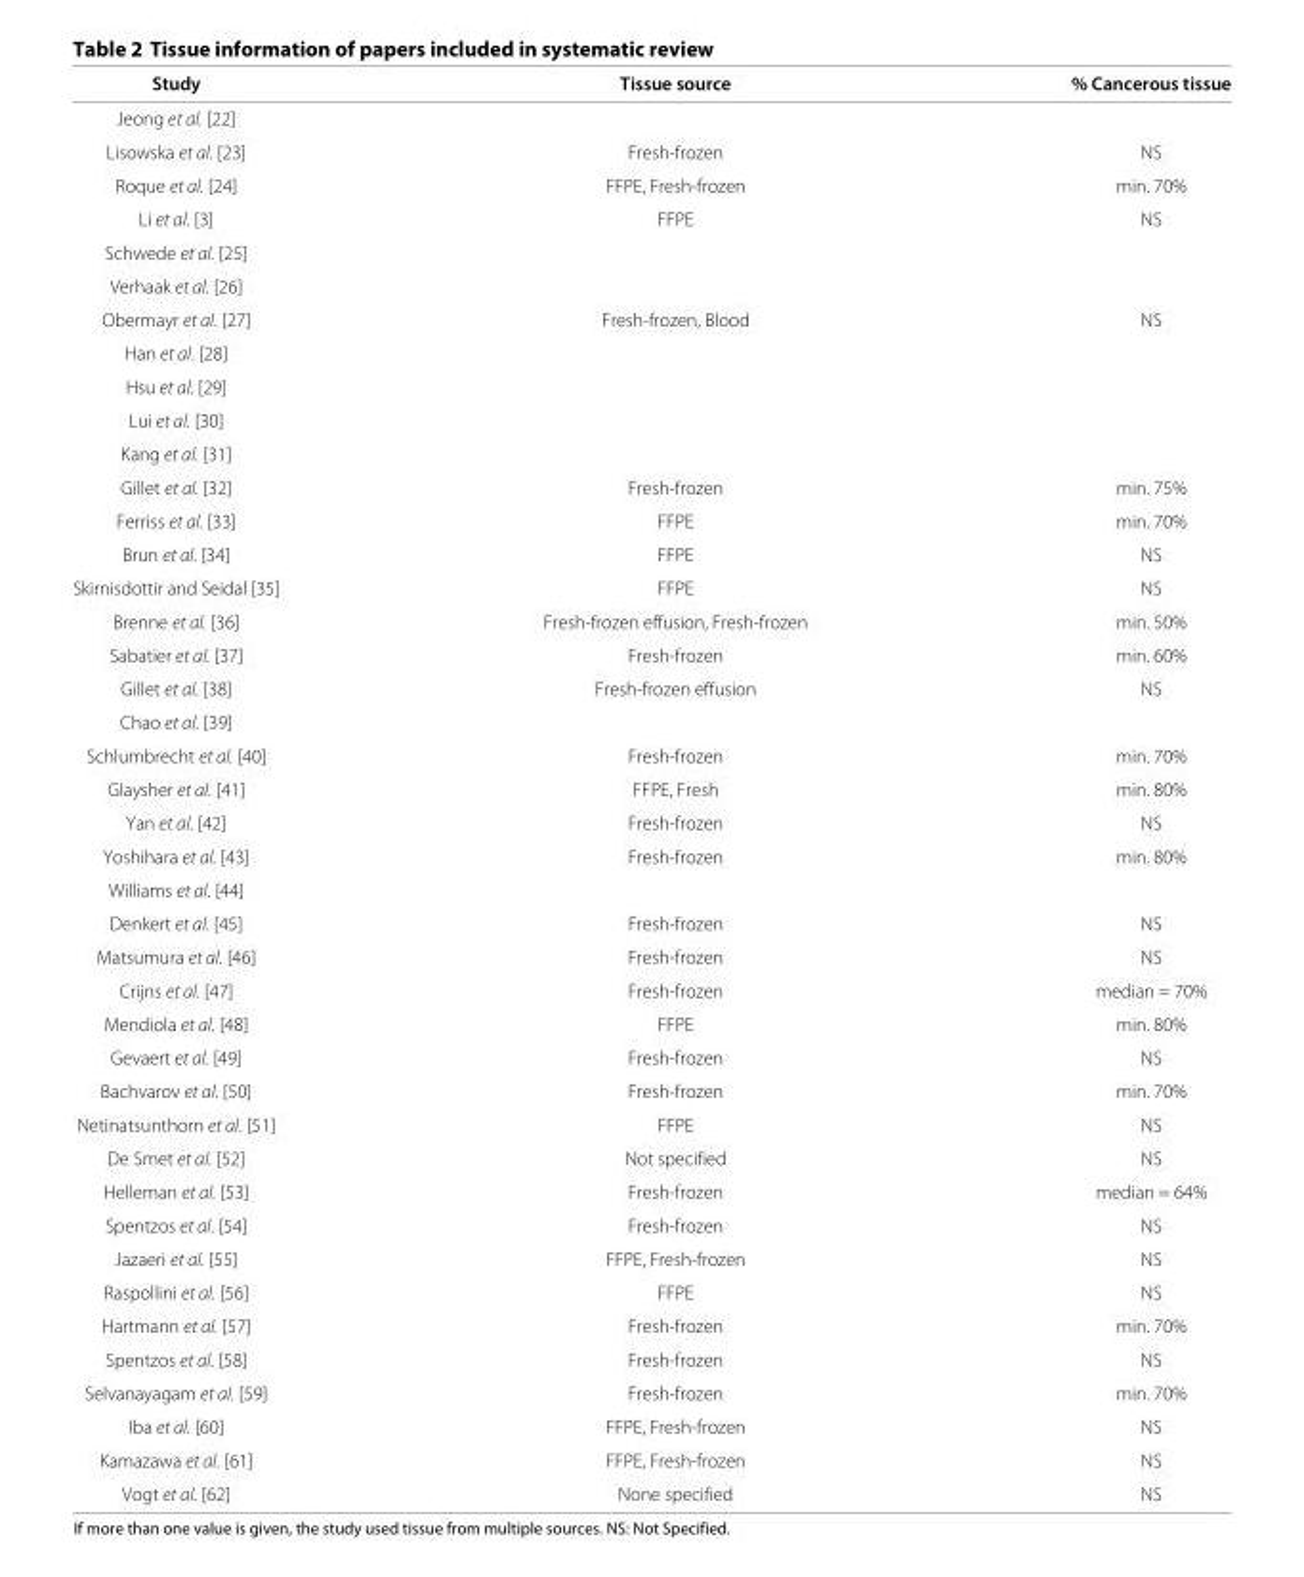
<table><thead><tr><td>Study</td><td>Tissue source</td><td>% Cancerous tissue</td></tr></thead><tbody><tr><td colspan="3">Jeong et al. [22]</td></tr><tr><td>Lisowska et al. [23]</td><td>Fresh-frozen</td><td>NS</td></tr><tr><td>Roque et al. [24]</td><td>FFPE, Fresh-frozen</td><td>min. 70%</td></tr><tr><td>Li et al. [3]</td><td>FFPE</td><td>NS</td></tr><tr><td colspan="3">Schwede et al. [25]</td></tr><tr><td colspan="3">Verhaak et al. [26]</td></tr><tr><td>Obermayr et al. [27]</td><td>Fresh-frozen, Blood</td><td>NS</td></tr><tr><td colspan="3">Han et al. [28]</td></tr><tr><td colspan="3">Hsu et al. [29]</td></tr><tr><td colspan="3">Lui et al. [30]</td></tr><tr><td colspan="3">Kang et al. [31]</td></tr><tr><td>Gillet et al. [32]</td><td>Fresh-frozen</td><td>min. 75%</td></tr><tr><td>Ferriss et al. [33]</td><td>FFPE</td><td>min. 70%</td></tr><tr><td>Brun et al. [34]</td><td>FFPE</td><td>NS</td></tr><tr><td>Skirnisdottir and Seidal [35]</td><td>FFPE</td><td>NS</td></tr><tr><td>Brenne et al. [36]</td><td>Fresh-frozen effusion, Fresh-frozen</td><td>min. 50%</td></tr><tr><td>Sabatier et al. [37]</td><td>Fresh-frozen</td><td>min. 60%</td></tr><tr><td>Gillet et al. [38]</td><td>Fresh-frozen effusion</td><td>NS</td></tr><tr><td colspan="3">Chao et al. [39]</td></tr><tr><td>Schlumbrecht et al. [40]</td><td>Fresh-frozen</td><td>min. 70%</td></tr><tr><td>Glaysher et al. [41]</td><td>FFPE, Fresh</td><td>min. 80%</td></tr><tr><td>Yan et al. [42]</td><td>Fresh-frozen</td><td>NS</td></tr><tr><td>Yoshihara et al. [43]</td><td>Fresh-frozen</td><td>min. 80%</td></tr><tr><td colspan="3">Williams et al. [44]</td></tr><tr><td>Denkert et al. [45]</td><td>Fresh-frozen</td><td>NS</td></tr><tr><td>Matsumura et al. [46]</td><td>Fresh-frozen</td><td>NS</td></tr><tr><td>Crijns et al. [47]</td><td>Fresh-frozen</td><td>median = 70%</td></tr><tr><td>Mendiola et al. [48]</td><td>FFPE</td><td>min. 80%</td></tr><tr><td>Gevaert et al. [49]</td><td>Fresh-frozen</td><td>NS</td></tr><tr><td>Bachvarov et al. [50]</td><td>Fresh-frozen</td><td>min. 70%</td></tr><tr><td>Netinatsunthorn et al. [51]</td><td>FFPE</td><td>NS</td></tr><tr><td>De Smet et al. [52]</td><td>Not specified</td><td>NS</td></tr><tr><td>Helleman et al. [53]</td><td>Fresh-frozen</td><td>median = 64%</td></tr><tr><td>Spentzos et al. [54]</td><td>Fresh-frozen</td><td>NS</td></tr><tr><td>Jazaeri et al. [55]</td><td>FFPE, Fresh-frozen</td><td>NS</td></tr><tr><td>Raspollini et al. [56]</td><td>FFPE</td><td>NS</td></tr><tr><td>Hartmann et al. [57]</td><td>Fresh-frozen</td><td>min. 70%</td></tr><tr><td>Spentzos et al. [58]</td><td>Fresh-frozen</td><td>NS</td></tr><tr><td>Selvanayagam et al. [59]</td><td>Fresh-frozen</td><td>min. 70%</td></tr><tr><td>Iba et al. [60]</td><td>FFPE, Fresh-frozen</td><td>NS</td></tr><tr><td>Kamazawa et al. [61]</td><td>FFPE, Fresh-frozen</td><td>NS</td></tr><tr><td>Vogt et al. [62]</td><td>None specified</td><td>NS</td></tr></tbody></table>